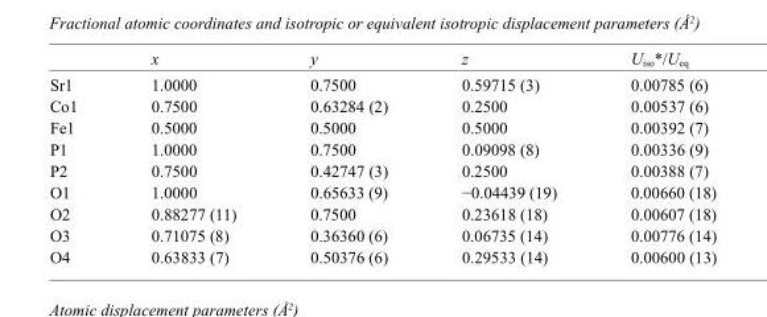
<table><thead><tr><td></td><td>x</td><td>y</td><td>z</td><td>U<sub>iso</sub>*/U<sub>eq</sub></td></tr></thead><tbody><tr><td>Sr1</td><td>1.0000</td><td>0.7500</td><td>0.59715 (3)</td><td>0.00785 (6)</td></tr><tr><td>Co1</td><td>0.7500</td><td>0.63284 (2)</td><td>0.2500</td><td>0.00537 (6)</td></tr><tr><td>Fe1</td><td>0.5000</td><td>0.5000</td><td>0.5000</td><td>0.00392 (7)</td></tr><tr><td>P1</td><td>1.0000</td><td>0.7500</td><td>0.09098 (8)</td><td>0.00336 (9)</td></tr><tr><td>P2</td><td>0.7500</td><td>0.42747 (3)</td><td>0.2500</td><td>0.00388 (7)</td></tr><tr><td>O1</td><td>1.0000</td><td>0.65633 (9)</td><td>−0.04439 (19)</td><td>0.00660 (18)</td></tr><tr><td>O2</td><td>0.88277 (11)</td><td>0.7500</td><td>0.23618 (18)</td><td>0.00607 (18)</td></tr><tr><td>O3</td><td>0.71075 (8)</td><td>0.36360 (6)</td><td>0.06735 (14)</td><td>0.00776 (14)</td></tr><tr><td>O4</td><td>0.63833 (7)</td><td>0.50376 (6)</td><td>0.29533 (14)</td><td>0.00600 (13)</td></tr></tbody></table>